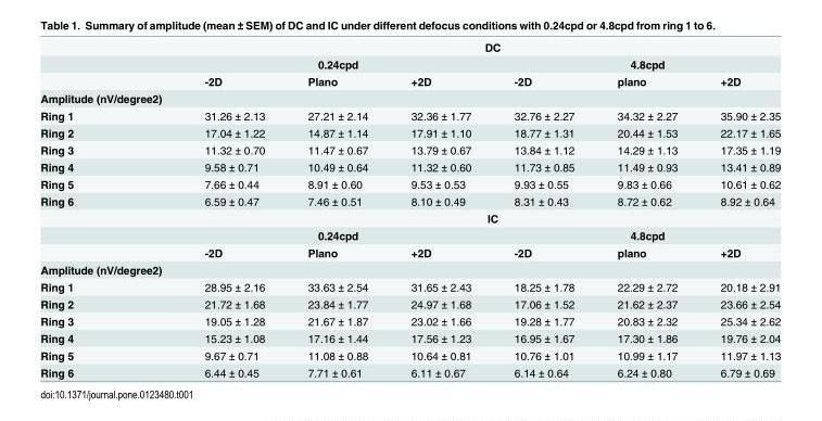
<table><thead><tr><td rowspan="3"></td><td colspan="6">DC</td></tr><tr><td colspan="3">0.24cpd</td><td colspan="3">4.8cpd</td></tr><tr><td>-2D</td><td>Plano</td><td>+2D</td><td>-2D</td><td>plano</td><td>+2D</td></tr></thead><tbody><tr><td colspan="7">Amplitude (nV/degree2)</td></tr><tr><td>Ring 1</td><td>31.26 ± 2.13</td><td>27.21 ± 2.14</td><td>32.36 ± 1.77</td><td>32.76 ± 2.27</td><td>34.32 ± 2.27</td><td>35.90 ± 2.35</td></tr><tr><td>Ring 2</td><td>17.04 ± 1.22</td><td>14.87 ± 1.14</td><td>17.91 ± 1.10</td><td>18.77 ± 1.31</td><td>20.44 ± 1.53</td><td>22.17 ± 1.65</td></tr><tr><td>Ring 3</td><td>11.32 ± 0.70</td><td>11.47 ± 0.67</td><td>13.79 ± 0.67</td><td>13.84 ± 1.12</td><td>14.29 ± 1.13</td><td>17.35 ± 1.19</td></tr><tr><td>Ring 4</td><td>9.58 ± 0.71</td><td>10.49 ± 0.64</td><td>11.32 ± 0.60</td><td>11.73 ± 0.85</td><td>11.49 ± 0.93</td><td>13.41 ± 0.89</td></tr><tr><td>Ring 5</td><td>7.66 ± 0.44</td><td>8.91 ± 0.60</td><td>9.53 ± 0.53</td><td>9.93 ± 0.55</td><td>9.83 ± 0.66</td><td>10.61 ± 0.62</td></tr><tr><td rowspan="4">Ring 6</td><td>6.59 ± 0.47</td><td>7.46 ± 0.51</td><td>8.10 ± 0.49</td><td>8.31 ± 0.43</td><td>8.72 ± 0.62</td><td>8.92 ± 0.64</td></tr><tr><td colspan="6">IC</td></tr><tr><td colspan="3">0.24cpd</td><td colspan="3">4.8cpd</td></tr><tr><td>-2D</td><td>Plano</td><td>+2D</td><td>-2D</td><td>plano</td><td>+2D</td></tr><tr><td colspan="7">Amplitude (nV/degree2)</td></tr><tr><td>Ring 1</td><td>28.95 ± 2.16</td><td>33.63 ± 2.54</td><td>31.65 ± 2.43</td><td>18.25 ± 1.78</td><td>22.29 ± 2.72</td><td>20.18 ± 2.91</td></tr><tr><td>Ring 2</td><td>21.72 ± 1.68</td><td>23.84 ± 1.77</td><td>24.97 ± 1.68</td><td>17.06 ± 1.52</td><td>21.62 ± 2.37</td><td>23.66 ± 2.54</td></tr><tr><td>Ring 3</td><td>19.05 ± 1.28</td><td>21.67 ± 1.87</td><td>23.02 ± 1.66</td><td>19.28 ± 1.77</td><td>20.83 ± 2.32</td><td>25.34 ± 2.62</td></tr><tr><td>Ring 4</td><td>15.23 ± 1.08</td><td>17.16 ± 1.44</td><td>17.56 ± 1.23</td><td>16.95 ± 1.67</td><td>17.30 ± 1.86</td><td>19.76 ± 2.04</td></tr><tr><td>Ring 5</td><td>9.67 ± 0.71</td><td>11.08 ± 0.88</td><td>10.64 ± 0.81</td><td>10.76 ± 1.01</td><td>10.99 ± 1.17</td><td>11.97 ± 1.13</td></tr><tr><td>Ring 6</td><td>6.44 ± 0.45</td><td>7.71 ± 0.61</td><td>6.11 ± 0.67</td><td>6.14 ± 0.64</td><td>6.24 ± 0.80</td><td>6.79 ± 0.69</td></tr></tbody></table>